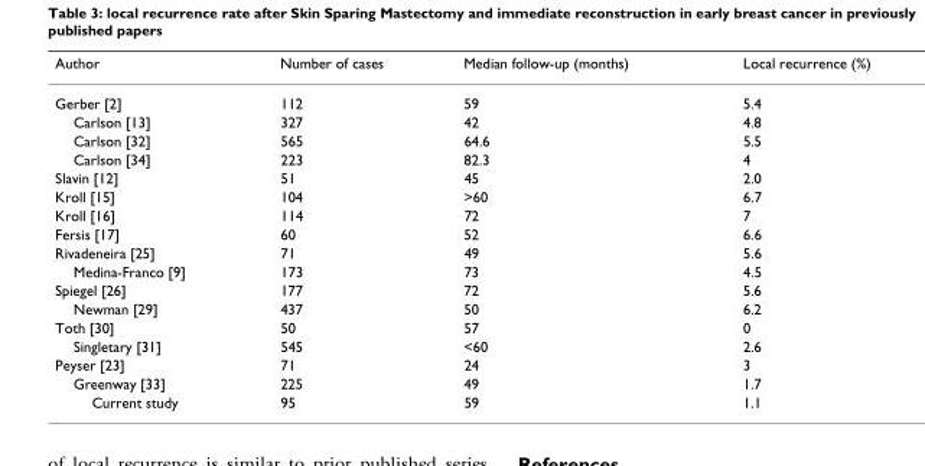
<table><thead><tr><td>Author</td><td>Number of cases</td><td>Median follow-up (months)</td><td>Local recurrence (%)</td></tr></thead><tbody><tr><td>Gerber [2]</td><td>112</td><td>59</td><td>5.4</td></tr><tr><td>Carlson [13]</td><td>327</td><td>42</td><td>4.8</td></tr><tr><td>Carlson [32]</td><td>565</td><td>64.6</td><td>5.5</td></tr><tr><td>Carlson [34]</td><td>223</td><td>82.3</td><td>4</td></tr><tr><td>Slavin [12]</td><td>51</td><td>45</td><td>2.0</td></tr><tr><td>Kroll [15]</td><td>104</td><td>&gt;60</td><td>6.7</td></tr><tr><td>Kroll [16]</td><td>114</td><td>72</td><td>7</td></tr><tr><td>Fersis [17]</td><td>60</td><td>52</td><td>6.6</td></tr><tr><td>Rivadeneira [25]</td><td>71</td><td>49</td><td>5.6</td></tr><tr><td>Medina-Franco [9]</td><td>173</td><td>73</td><td>4.5</td></tr><tr><td>Spiegel [26]</td><td>177</td><td>72</td><td>5.6</td></tr><tr><td>Newman [29]</td><td>437</td><td>50</td><td>6.2</td></tr><tr><td>Toth [30]</td><td>50</td><td>57</td><td>0</td></tr><tr><td>Singletary [31]</td><td>545</td><td>&lt;60</td><td>2.6</td></tr><tr><td>Peyser [23]</td><td>71</td><td>24</td><td>3</td></tr><tr><td>Greenway [33]</td><td>225</td><td>49</td><td>1.7</td></tr><tr><td>Current study</td><td>95</td><td>59</td><td>1.1</td></tr></tbody></table>